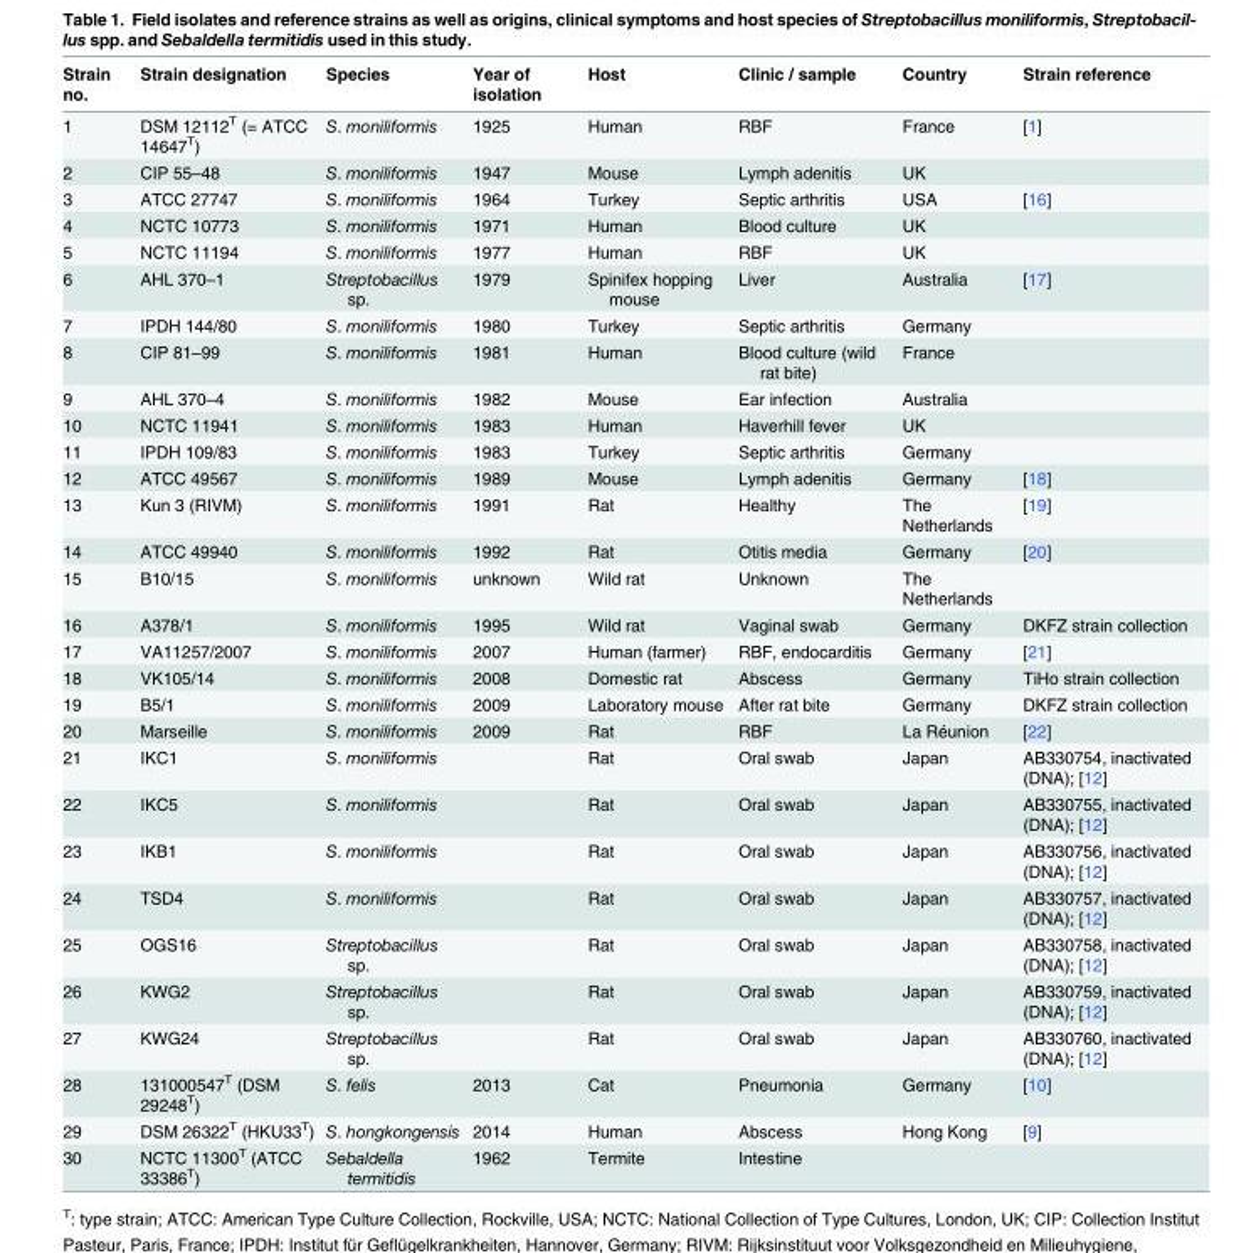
<table><thead><tr><td>Strain no.</td><td>Strain designation</td><td>Species</td><td>Year of isolation</td><td>Host</td><td>Clinic / sample</td><td>Country</td><td>Strain reference</td></tr></thead><tbody><tr><td>1</td><td>DSM 12112<sup>T</sup> (= ATCC 14647<sup>T</sup>)</td><td>S. moniliformis</td><td>1925</td><td>Human</td><td>RBF</td><td>France</td><td>[1]</td></tr><tr><td>2</td><td>CIP 55–48</td><td>S. moniliformis</td><td>1947</td><td>Mouse</td><td>Lymph adenitis</td><td>UK</td><td></td></tr><tr><td>3</td><td>ATCC 27747</td><td>S. moniliformis</td><td>1964</td><td>Turkey</td><td>Septic arthritis</td><td>USA</td><td>[16]</td></tr><tr><td>4</td><td>NCTC 10773</td><td>S. moniliformis</td><td>1971</td><td>Human</td><td>Blood culture</td><td>UK</td><td></td></tr><tr><td>5</td><td>NCTC 11194</td><td>S. moniliformis</td><td>1977</td><td>Human</td><td>RBF</td><td>UK</td><td></td></tr><tr><td>6</td><td>AHL 370–1</td><td>Streptobacillus sp.</td><td>1979</td><td>Spinifex hopping mouse</td><td>Liver</td><td>Australia</td><td>[17]</td></tr><tr><td>7</td><td>IPDH 144/80</td><td>S. moniliformis</td><td>1980</td><td>Turkey</td><td>Septic arthritis</td><td>Germany</td><td></td></tr><tr><td>8</td><td>CIP 81–99</td><td>S. moniliformis</td><td>1981</td><td>Human</td><td>Blood culture (wild rat bite)</td><td>France</td><td></td></tr><tr><td>9</td><td>AHL 370–4</td><td>S. moniliformis</td><td>1982</td><td>Mouse</td><td>Ear infection</td><td>Australia</td><td></td></tr><tr><td>10</td><td>NCTC 11941</td><td>S. moniliformis</td><td>1983</td><td>Human</td><td>Haverhill fever</td><td>UK</td><td></td></tr><tr><td>11</td><td>IPDH 109/83</td><td>S. moniliformis</td><td>1983</td><td>Turkey</td><td>Septic arthritis</td><td>Germany</td><td></td></tr><tr><td>12</td><td>ATCC 49567</td><td>S. moniliformis</td><td>1989</td><td>Mouse</td><td>Lymph adenitis</td><td>Germany</td><td>[18]</td></tr><tr><td>13</td><td>Kun 3 (RIVM)</td><td>S. moniliformis</td><td>1991</td><td>Rat</td><td>Healthy</td><td>The Netherlands</td><td>[19]</td></tr><tr><td>14</td><td>ATCC 49940</td><td>S. moniliformis</td><td>1992</td><td>Rat</td><td>Otitis media</td><td>Germany</td><td>[20]</td></tr><tr><td>15</td><td>B10/15</td><td>S. moniliformis</td><td>unknown</td><td>Wild rat</td><td>Unknown</td><td>The Netherlands</td><td></td></tr><tr><td>16</td><td>A378/1</td><td>S. moniliformis</td><td>1995</td><td>Wild rat</td><td>Vaginal swab</td><td>Germany</td><td>DKFZ strain collection</td></tr><tr><td>17</td><td>VA11257/2007</td><td>S. moniliformis</td><td>2007</td><td>Human (farmer)</td><td>RBF, endocarditis</td><td>Germany</td><td>[21]</td></tr><tr><td>18</td><td>VK105/14</td><td>S. moniliformis</td><td>2008</td><td>Domestic rat</td><td>Abscess</td><td>Germany</td><td>TiHo strain collection</td></tr><tr><td>19</td><td>B5/1</td><td>S. moniliformis</td><td>2009</td><td>Laboratory mouse</td><td>After rat bite</td><td>Germany</td><td>DKFZ strain collection</td></tr><tr><td>20</td><td>Marseille</td><td>S. moniliformis</td><td>2009</td><td>Rat</td><td>RBF</td><td>La Réunion</td><td>[22]</td></tr><tr><td>21</td><td>IKC1</td><td>S. moniliformis</td><td></td><td>Rat</td><td>Oral swab</td><td>Japan</td><td>AB330754, inactivated (DNA); [12]</td></tr><tr><td>22</td><td>IKC5</td><td>S. moniliformis</td><td></td><td>Rat</td><td>Oral swab</td><td>Japan</td><td>AB330755, inactivated (DNA); [12]</td></tr><tr><td>23</td><td>IKB1</td><td>S. moniliformis</td><td></td><td>Rat</td><td>Oral swab</td><td>Japan</td><td>AB330756, inactivated (DNA); [12]</td></tr><tr><td>24</td><td>TSD4</td><td>S. moniliformis</td><td></td><td>Rat</td><td>Oral swab</td><td>Japan</td><td>AB330757, inactivated (DNA); [12]</td></tr><tr><td>25</td><td>OGS16</td><td>Streptobacillus sp.</td><td></td><td>Rat</td><td>Oral swab</td><td>Japan</td><td>AB330758, inactivated (DNA); [12]</td></tr><tr><td>26</td><td>KWG2</td><td>Streptobacillus sp.</td><td></td><td>Rat</td><td>Oral swab</td><td>Japan</td><td>AB330759, inactivated (DNA); [12]</td></tr><tr><td>27</td><td>KWG24</td><td>Streptobacillus sp.</td><td></td><td>Rat</td><td>Oral swab</td><td>Japan</td><td>AB330760, inactivated (DNA); [12]</td></tr><tr><td>28</td><td>131000547<sup>T</sup> (DSM 29248<sup>T</sup>)</td><td>S. felis</td><td>2013</td><td>Cat</td><td>Pneumonia</td><td>Germany</td><td>[10]</td></tr><tr><td>29</td><td>DSM 26322<sup>T</sup> (HKU33<sup>T</sup>)</td><td>S. hongkongensis</td><td>2014</td><td>Human</td><td>Abscess</td><td>Hong Kong</td><td>[9]</td></tr><tr><td>30</td><td>NCTC 11300<sup>T</sup> (ATCC 33386<sup>T</sup>)</td><td>Sebaldella termitidis</td><td>1962</td><td>Termite</td><td>Intestine</td><td></td><td></td></tr></tbody></table>